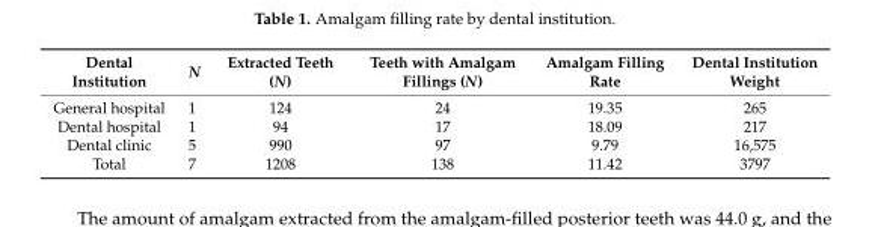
<table><thead><tr><td>Dental Institution</td><td>N</td><td>Extracted Teeth (N)</td><td>Teeth with Amalgam Fillings (N)</td><td>Amalgam Filling Rate</td><td>Dental Institution Weight</td></tr></thead><tbody><tr><td>General hospital</td><td>1</td><td>124</td><td>24</td><td>19.35</td><td>265</td></tr><tr><td>Dental hospital</td><td>1</td><td>94</td><td>17</td><td>18.09</td><td>217</td></tr><tr><td>Dental clinic</td><td>5</td><td>990</td><td>97</td><td>9.79</td><td>16,575</td></tr><tr><td>Total</td><td>7</td><td>1208</td><td>138</td><td>11.42</td><td>3797</td></tr></tbody></table>